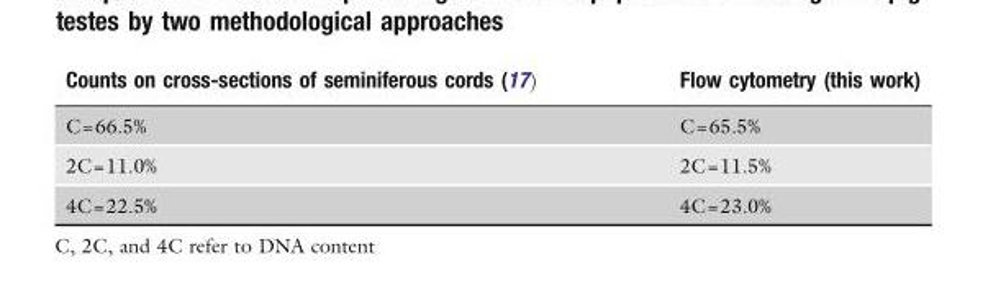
<table><thead><tr><td>Counts on cross-sections of seminiferous cords (17)</td><td>Flow cytometry (this work)</td></tr></thead><tbody><tr><td>C=66.5%</td><td>C=65.5%</td></tr><tr><td>2C=11.0%</td><td>2C=11.5%</td></tr><tr><td>4C=22.5%</td><td>4C=23.0%</td></tr></tbody></table>